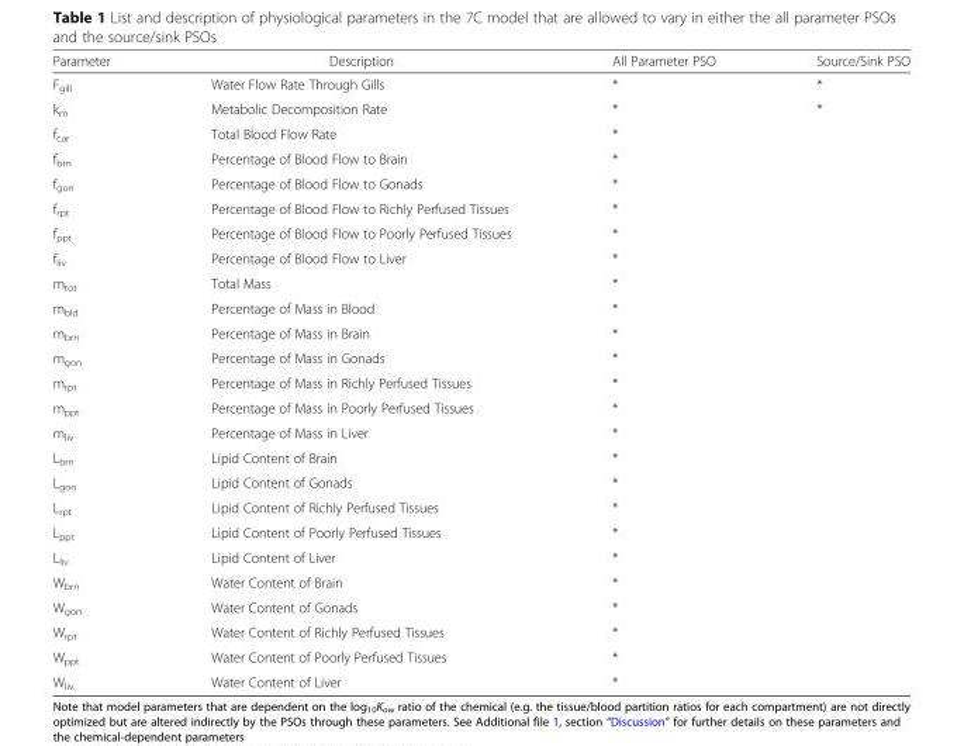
<table><thead><tr><td>Parameter</td><td>Description</td><td>All Parameter PSO</td><td>Source/Sink PSO</td></tr></thead><tbody><tr><td>F<sub>gill</sub></td><td>Water Flow Rate Through Gills</td><td>*</td><td>*</td></tr><tr><td>k<sub>m</sub></td><td>Metabolic Decomposition Rate</td><td>*</td><td>*</td></tr><tr><td>f<sub>car</sub></td><td>Total Blood Flow Rate</td><td>*</td><td></td></tr><tr><td>f<sub>brn</sub></td><td>Percentage of Blood Flow to Brain</td><td>*</td><td></td></tr><tr><td>f<sub>gon</sub></td><td>Percentage of Blood Flow to Gonads</td><td>*</td><td></td></tr><tr><td>f<sub>rpt</sub></td><td>Percentage of Blood Flow to Richly Perfused Tissues</td><td>*</td><td></td></tr><tr><td>f<sub>ppt</sub></td><td>Percentage of Blood Flow to Poorly Perfused Tissues</td><td>*</td><td></td></tr><tr><td>f<sub>liv</sub></td><td>Percentage of Blood Flow to Liver</td><td>*</td><td></td></tr><tr><td>m<sub>tot</sub></td><td>Total Mass</td><td>*</td><td></td></tr><tr><td>m<sub>bld</sub></td><td>Percentage of Mass in Blood</td><td>*</td><td></td></tr><tr><td>m<sub>brn</sub></td><td>Percentage of Mass in Brain</td><td>*</td><td></td></tr><tr><td>m<sub>gon</sub></td><td>Percentage of Mass in Gonads</td><td>*</td><td></td></tr><tr><td>m<sub>rpt</sub></td><td>Percentage of Mass in Richly Perfused Tissues</td><td>*</td><td></td></tr><tr><td>m<sub>ppt</sub></td><td>Percentage of Mass in Poorly Perfused Tissues</td><td>*</td><td></td></tr><tr><td>m<sub>liv</sub></td><td>Percentage of Mass in Liver</td><td>*</td><td></td></tr><tr><td>L<sub>brn</sub></td><td>Lipid Content of Brain</td><td>*</td><td></td></tr><tr><td>L<sub>gon</sub></td><td>Lipid Content of Gonads</td><td>*</td><td></td></tr><tr><td>L<sub>rpt</sub></td><td>Lipid Content of Richly Perfused Tissues</td><td>*</td><td></td></tr><tr><td>L<sub>ppt</sub></td><td>Lipid Content of Poorly Perfused Tissues</td><td>*</td><td></td></tr><tr><td>L<sub>liv</sub></td><td>Lipid Content of Liver</td><td>*</td><td></td></tr><tr><td>W<sub>brn</sub></td><td>Water Content of Brain</td><td>*</td><td></td></tr><tr><td>W<sub>gon</sub></td><td>Water Content of Gonads</td><td>*</td><td></td></tr><tr><td>W<sub>rpt</sub></td><td>Water Content of Richly Perfused Tissues</td><td>*</td><td></td></tr><tr><td>W<sub>ppt</sub></td><td>Water Content of Poorly Perfused Tissues</td><td>*</td><td></td></tr><tr><td>W<sub>liv</sub></td><td>Water Content of Liver</td><td>*</td><td></td></tr></tbody></table>